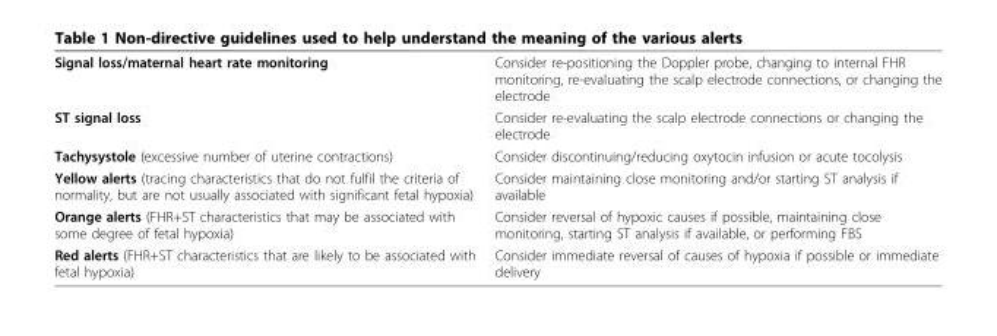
<table><tbody><tr><td>Signal loss/maternal heart rate monitoring</td><td>Consider re-positioning the Doppler probe, changing to internal FHR monitoring, re-evaluating the scalp electrode connections, or changing the electrode</td></tr><tr><td>ST signal loss</td><td>Consider re-evaluating the scalp electrode connections or changing the electrode</td></tr><tr><td>Tachysystole (excessive number of uterine contractions)</td><td>Consider discontinuing/reducing oxytocin infusion or acute tocolysis</td></tr><tr><td>Yellow alerts (tracing characteristics that do not fulfil the criteria of normality, but are not usually associated with significant fetal hypoxia)</td><td>Consider maintaining close monitoring and/or starting ST analysis if available</td></tr><tr><td>Orange alerts (FHR+ST characteristics that may be associated with some degree of fetal hypoxia)</td><td>Consider reversal of hypoxic causes if possible, maintaining close monitoring, starting ST analysis if available, or performing FBS</td></tr><tr><td>Red alerts (FHR+ST characteristics that are likely to be associated with fetal hypoxia)</td><td>Consider immediate reversal of causes of hypoxia if possible or immediate delivery</td></tr></tbody></table>